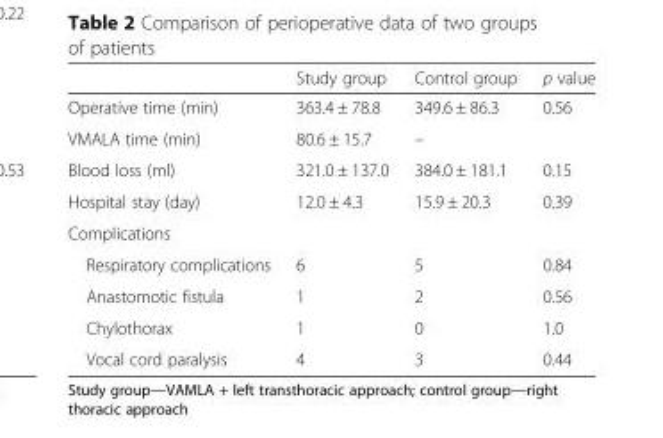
<table><thead><tr><td></td><td>Study group</td><td>Control group</td><td>p value</td></tr></thead><tbody><tr><td>Operative time (min)</td><td>363.4 ± 78.8</td><td>349.6 ± 86.3</td><td>0.56</td></tr><tr><td>VMALA time (min)</td><td>80.6 ± 15.7</td><td>–</td><td></td></tr><tr><td>Blood loss (ml)</td><td>321.0 ± 137.0</td><td>384.0 ± 181.1</td><td>0.15</td></tr><tr><td>Hospital stay (day)</td><td>12.0 ± 4.3</td><td>15.9 ± 20.3</td><td>0.39</td></tr><tr><td colspan="4">Complications</td></tr><tr><td>Respiratory complications</td><td>6</td><td>5</td><td>0.84</td></tr><tr><td>Anastomotic fistula</td><td>1</td><td>2</td><td>0.56</td></tr><tr><td>Chylothorax</td><td>1</td><td>0</td><td>1.0</td></tr><tr><td>Vocal cord paralysis</td><td>4</td><td>3</td><td>0.44</td></tr></tbody></table>